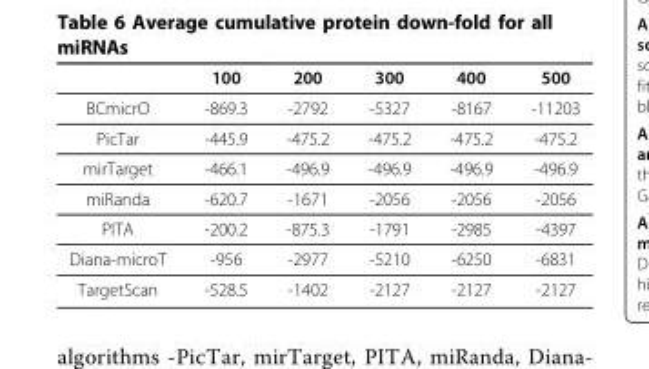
<table><thead><tr><td></td><td>100</td><td>200</td><td>300</td><td>400</td><td>500</td></tr></thead><tbody><tr><td>BCmicrO</td><td>-869.3</td><td>-2792</td><td>-5327</td><td>-8167</td><td>-11203</td></tr><tr><td>PicTar</td><td>-445.9</td><td>-475.2</td><td>-475.2</td><td>-475.2</td><td>-475.2</td></tr><tr><td>mirTarget</td><td>-466.1</td><td>-496.9</td><td>-496.9</td><td>-496.9</td><td>-496.9</td></tr><tr><td>miRanda</td><td>-620.7</td><td>-1671</td><td>-2056</td><td>-2056</td><td>-2056</td></tr><tr><td>PITA</td><td>-200.2</td><td>-875.3</td><td>-1791</td><td>-2985</td><td>-4397</td></tr><tr><td>Diana-microT</td><td>-956</td><td>-2977</td><td>-5210</td><td>-6250</td><td>-6831</td></tr><tr><td>TargetScan</td><td>-528.5</td><td>-1402</td><td>-2127</td><td>-2127</td><td>-2127</td></tr></tbody></table>